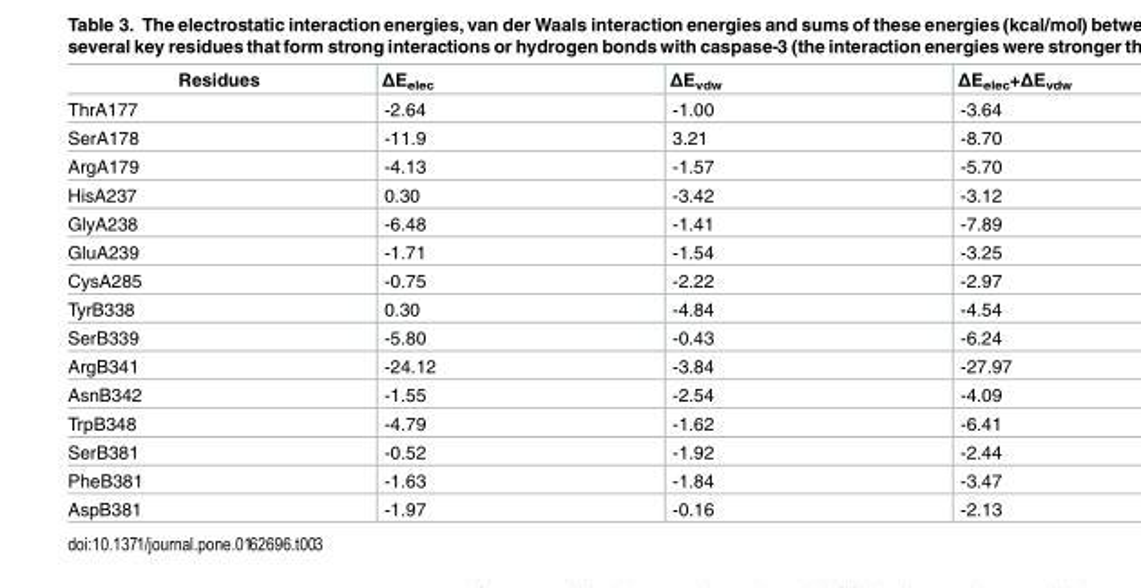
<table><thead><tr><td>Residues</td><td>ΔE<sub>elec</sub></td><td>ΔE<sub>vdw</sub></td><td>ΔE<sub>elec</sub>+ΔE<sub>vdw</sub></td></tr></thead><tbody><tr><td>ThrA177</td><td>-2.64</td><td>-1.00</td><td>-3.64</td></tr><tr><td>SerA178</td><td>-11.9</td><td>3.21</td><td>-8.70</td></tr><tr><td>ArgA179</td><td>-4.13</td><td>-1.57</td><td>-5.70</td></tr><tr><td>HisA237</td><td>0.30</td><td>-3.42</td><td>-3.12</td></tr><tr><td>GlyA238</td><td>-6.48</td><td>-1.41</td><td>-7.89</td></tr><tr><td>GluA239</td><td>-1.71</td><td>-1.54</td><td>-3.25</td></tr><tr><td>CysA285</td><td>-0.75</td><td>-2.22</td><td>-2.97</td></tr><tr><td>TyrB338</td><td>0.30</td><td>-4.84</td><td>-4.54</td></tr><tr><td>SerB339</td><td>-5.80</td><td>-0.43</td><td>-6.24</td></tr><tr><td>ArgB341</td><td>-24.12</td><td>-3.84</td><td>-27.97</td></tr><tr><td>AsnB342</td><td>-1.55</td><td>-2.54</td><td>-4.09</td></tr><tr><td>TrpB348</td><td>-4.79</td><td>-1.62</td><td>-6.41</td></tr><tr><td>SerB381</td><td>-0.52</td><td>-1.92</td><td>-2.44</td></tr><tr><td>PheB381</td><td>-1.63</td><td>-1.84</td><td>-3.47</td></tr><tr><td>AspB381</td><td>-1.97</td><td>-0.16</td><td>-2.13</td></tr></tbody></table>